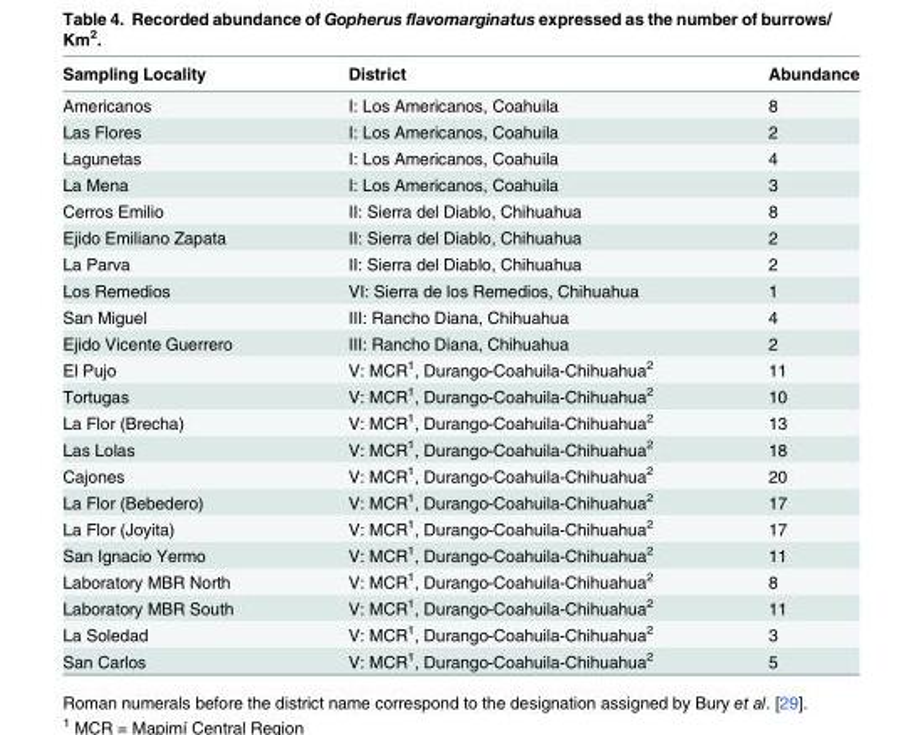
<table><thead><tr><td>Sampling Locality</td><td>District</td><td>Abundance</td></tr></thead><tbody><tr><td>Americanos</td><td>I: Los Americanos, Coahuila</td><td>8</td></tr><tr><td>Las Flores</td><td>I: Los Americanos, Coahuila</td><td>2</td></tr><tr><td>Lagunetas</td><td>I: Los Americanos, Coahuila</td><td>4</td></tr><tr><td>La Mena</td><td>I: Los Americanos, Coahuila</td><td>3</td></tr><tr><td>Cerros Emilio</td><td>II: Sierra del Diablo, Chihuahua</td><td>8</td></tr><tr><td>Ejido Emiliano Zapata</td><td>II: Sierra del Diablo, Chihuahua</td><td>2</td></tr><tr><td>La Parva</td><td>II: Sierra del Diablo, Chihuahua</td><td>2</td></tr><tr><td>Los Remedios</td><td>VI: Sierra de los Remedios, Chihuahua</td><td>1</td></tr><tr><td>San Miguel</td><td>III: Rancho Diana, Chihuahua</td><td>4</td></tr><tr><td>Ejido Vicente Guerrero</td><td>III: Rancho Diana, Chihuahua</td><td>2</td></tr><tr><td>El Pujo</td><td>V: MCR<sup>1</sup>, Durango-Coahuila-Chihuahua<sup>2</sup></td><td>11</td></tr><tr><td>Tortugas</td><td>V: MCR<sup>1</sup>, Durango-Coahuila-Chihuahua<sup>2</sup></td><td>10</td></tr><tr><td>La Flor (Brecha)</td><td>V: MCR<sup>1</sup>, Durango-Coahuila-Chihuahua<sup>2</sup></td><td>13</td></tr><tr><td>Las Lolas</td><td>V: MCR<sup>1</sup>, Durango-Coahuila-Chihuahua<sup>2</sup></td><td>18</td></tr><tr><td>Cajones</td><td>V: MCR<sup>1</sup>, Durango-Coahuila-Chihuahua<sup>2</sup></td><td>20</td></tr><tr><td>La Flor (Bebedero)</td><td>V: MCR<sup>1</sup>, Durango-Coahuila-Chihuahua<sup>2</sup></td><td>17</td></tr><tr><td>La Flor (Joyita)</td><td>V: MCR<sup>1</sup>, Durango-Coahuila-Chihuahua<sup>2</sup></td><td>17</td></tr><tr><td>San Ignacio Yermo</td><td>V: MCR<sup>1</sup>, Durango-Coahuila-Chihuahua<sup>2</sup></td><td>11</td></tr><tr><td>Laboratory MBR North</td><td>V: MCR<sup>1</sup>, Durango-Coahuila-Chihuahua<sup>2</sup></td><td>8</td></tr><tr><td>Laboratory MBR South</td><td>V: MCR<sup>1</sup>, Durango-Coahuila-Chihuahua<sup>2</sup></td><td>11</td></tr><tr><td>La Soledad</td><td>V: MCR<sup>1</sup>, Durango-Coahuila-Chihuahua<sup>2</sup></td><td>3</td></tr><tr><td>San Carlos</td><td>V: MCR<sup>1</sup>, Durango-Coahuila-Chihuahua<sup>2</sup></td><td>5</td></tr></tbody></table>